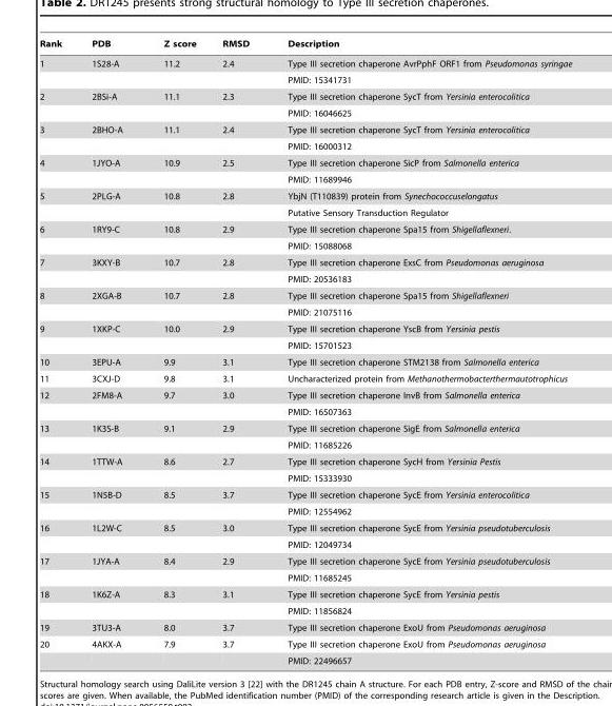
<table><thead><tr><td>Rank</td><td>PDB</td><td>Z score</td><td>RMSD</td><td>Description</td></tr></thead><tbody><tr><td rowspan="2">1</td><td>1S28-A</td><td>11.2</td><td>2.4</td><td>Type III secretion chaperone AvrPphF ORF1 from Pseudomonas syringae</td></tr><tr><td></td><td></td><td></td><td>PMID: 15341731</td></tr><tr><td rowspan="2">2</td><td>2BSi-A</td><td>11.1</td><td>2.3</td><td>Type III secretion chaperone SycT from Yersinia enterocolitica</td></tr><tr><td></td><td></td><td></td><td>PMID: 16046625</td></tr><tr><td rowspan="2">3</td><td>2BHO-A</td><td>11.1</td><td>2.4</td><td>Type III secretion chaperone SycT from Yersinia enterocolitica</td></tr><tr><td></td><td></td><td></td><td>PMID: 16000312</td></tr><tr><td rowspan="2">4</td><td>1JYO-A</td><td>10.9</td><td>2.5</td><td>Type III secretion chaperone SicP from Salmonella enterica</td></tr><tr><td></td><td></td><td></td><td>PMID: 11689946</td></tr><tr><td rowspan="2">5</td><td>2PLG-A</td><td>10.8</td><td>2.8</td><td>YbjN (T110839) protein from Synechococcuselongatus</td></tr><tr><td></td><td></td><td></td><td>Putative Sensory Transduction Regulator</td></tr><tr><td rowspan="2">6</td><td>1RY9-C</td><td>10.8</td><td>2.9</td><td>Type III secretion chaperone Spa15 from Shigellaflexneri.</td></tr><tr><td></td><td></td><td></td><td>PMID: 15088068</td></tr><tr><td rowspan="2">7</td><td>3KXY-B</td><td>10.7</td><td>2.8</td><td>Type III secretion chaperone ExsC from Pseudomonas aeruginosa</td></tr><tr><td></td><td></td><td></td><td>PMID: 20536183</td></tr><tr><td rowspan="2">8</td><td>2XGA-B</td><td>10.7</td><td>2.8</td><td>Type III secretion chaperone Spa15 from Shigellaflexneri</td></tr><tr><td></td><td></td><td></td><td>PMID: 21075116</td></tr><tr><td rowspan="2">9</td><td>1XKP-C</td><td>10.0</td><td>2.9</td><td>Type III secretion chaperone YscB from Yersinia pestis</td></tr><tr><td></td><td></td><td></td><td>PMID: 15701523</td></tr><tr><td>10</td><td>3EPU-A</td><td>9.9</td><td>3.1</td><td>Type III secretion chaperone STM2138 from Salmonella enterica</td></tr><tr><td>11</td><td>3CXJ-D</td><td>9.8</td><td>3.1</td><td>Uncharacterized protein from Methanothermobacterthermautotrophicus</td></tr><tr><td rowspan="2">12</td><td>2FM8-A</td><td>9.7</td><td>3.0</td><td>Type III secretion chaperone InvB from Salmonella enterica</td></tr><tr><td></td><td></td><td></td><td>PMID: 16507363</td></tr><tr><td rowspan="2">13</td><td>1K3S-B</td><td>9.1</td><td>2.9</td><td>Type III secretion chaperone SigE from Salmonella enterica</td></tr><tr><td></td><td></td><td></td><td>PMID: 11685226</td></tr><tr><td rowspan="2">14</td><td>1TTW-A</td><td>8.6</td><td>2.7</td><td>Type III secretion chaperone SycH from Yersinia Pestis</td></tr><tr><td></td><td></td><td></td><td>PMID: 15333930</td></tr><tr><td rowspan="2">15</td><td>1N5B-D</td><td>8.5</td><td>3.7</td><td>Type III secretion chaperone SycE from Yersinia enterocolitica</td></tr><tr><td></td><td></td><td></td><td>PMID: 12554962</td></tr><tr><td rowspan="2">16</td><td>1L2W-C</td><td>8.5</td><td>3.0</td><td>Type III secretion chaperone SycE from Yersinia pseudotuberculosis</td></tr><tr><td></td><td></td><td></td><td>PMID: 12049734</td></tr><tr><td rowspan="2">17</td><td>1JYA-A</td><td>8.4</td><td>2.9</td><td>Type III secretion chaperone SycE from Yersinia pseudotuberculosis</td></tr><tr><td></td><td></td><td></td><td>PMID: 11685245</td></tr><tr><td rowspan="2">18</td><td>1K6Z-A</td><td>8.3</td><td>3.1</td><td>Type III secretion chaperone SycE from Yersinia pestis</td></tr><tr><td></td><td></td><td></td><td>PMID: 11856824</td></tr><tr><td>19</td><td>3TU3-A</td><td>8.0</td><td>3.7</td><td>Type III secretion chaperone ExoU from Pseudomonas aeruginosa</td></tr><tr><td rowspan="2">20</td><td>4AKX-A</td><td>7.9</td><td>3.7</td><td>Type III secretion chaperone ExoU from Pseudomonas aeruginosa</td></tr><tr><td></td><td></td><td></td><td>PMID: 22496657</td></tr></tbody></table>